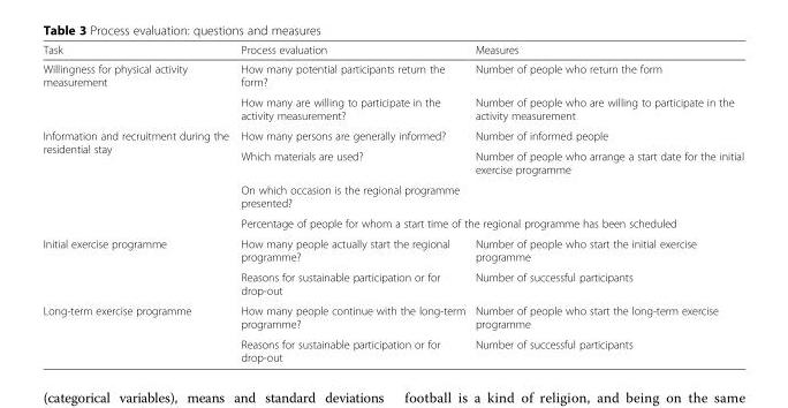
<table><thead><tr><td>Task</td><td>Process evaluation</td><td>Measures</td></tr></thead><tbody><tr><td rowspan="2">Willingness for physical activity measurement</td><td>How many potential participants return the form?</td><td>Number of people who return the form</td></tr><tr><td>How many are willing to participate in the activity measurement?</td><td>Number of people who are willing to participate in the activity measurement</td></tr><tr><td rowspan="4">Information and recruitment during the residential stay</td><td>How many persons are generally informed?</td><td>Number of informed people</td></tr><tr><td>Which materials are used?</td><td>Number of people who arrange a start date for the initial exercise programme</td></tr><tr><td>On which occasion is the regional programme presented?</td><td></td></tr><tr><td colspan="2">Percentage of people for whom a start time of the regional programme has been scheduled</td></tr><tr><td rowspan="2">Initial exercise programme</td><td>How many people actually start the regional programme?</td><td>Number of people who start the initial exercise programme</td></tr><tr><td>Reasons for sustainable participation or for drop-out</td><td>Number of successful participants</td></tr><tr><td rowspan="2">Long-term exercise programme</td><td>How many people continue with the long-term programme?</td><td>Number of people who start the long-term exercise programme</td></tr><tr><td>Reasons for sustainable participation or for drop-out</td><td>Number of successful participants</td></tr></tbody></table>